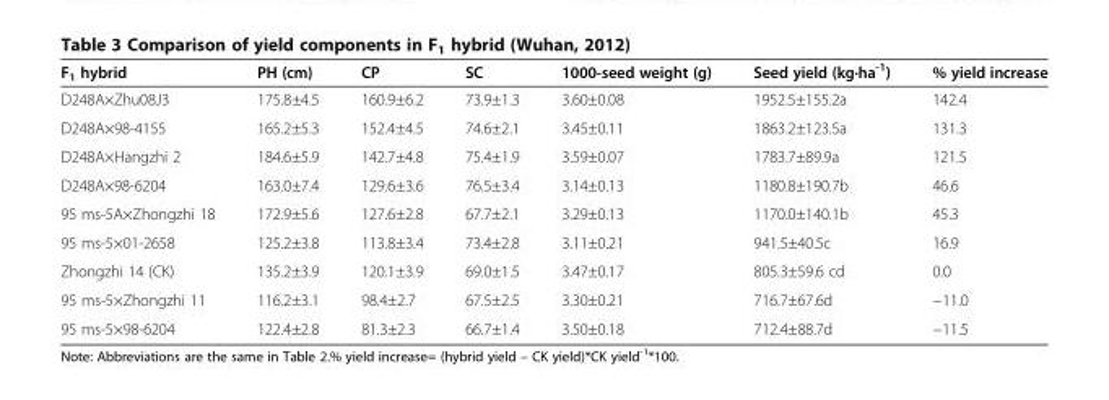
<table><thead><tr><td>F<sub>1</sub> hybrid</td><td>PH (cm)</td><td>CP</td><td>SC</td><td>1000-seed weight (g)</td><td>Seed yield (kg·ha<sup>-1</sup>)</td><td>% yield increase</td></tr></thead><tbody><tr><td>D248A×Zhu08J3</td><td>175.8±4.5</td><td>160.9±6.2</td><td>73.9±1.3</td><td>3.60±0.08</td><td>1952.5±155.2a</td><td>142.4</td></tr><tr><td>D248A×98-4155</td><td>165.2±5.3</td><td>152.4±4.5</td><td>74.6±2.1</td><td>3.45±0.11</td><td>1863.2±123.5a</td><td>131.3</td></tr><tr><td>D248A×Hangzhi 2</td><td>184.6±5.9</td><td>142.7±4.8</td><td>75.4±1.9</td><td>3.59±0.07</td><td>1783.7±89.9a</td><td>121.5</td></tr><tr><td>D248A×98-6204</td><td>163.0±7.4</td><td>129.6±3.6</td><td>76.5±3.4</td><td>3.14±0.13</td><td>1180.8±190.7b</td><td>46.6</td></tr><tr><td>95 ms-5A×Zhongzhi 18</td><td>172.9±5.6</td><td>127.6±2.8</td><td>67.7±2.1</td><td>3.29±0.13</td><td>1170.0±140.1b</td><td>45.3</td></tr><tr><td>95 ms-5×01-2658</td><td>125.2±3.8</td><td>113.8±3.4</td><td>73.4±2.8</td><td>3.11±0.21</td><td>941.5±40.5c</td><td>16.9</td></tr><tr><td>Zhongzhi 14 (CK)</td><td>135.2±3.9</td><td>120.1±3.9</td><td>69.0±1.5</td><td>3.47±0.17</td><td>805.3±59.6 cd</td><td>0.0</td></tr><tr><td>95 ms-5×Zhongzhi 11</td><td>116.2±3.1</td><td>98.4±2.7</td><td>67.5±2.5</td><td>3.30±0.21</td><td>716.7±67.6d</td><td>−11.0</td></tr><tr><td>95 ms-5×98-6204</td><td>122.4±2.8</td><td>81.3±2.3</td><td>66.7±1.4</td><td>3.50±0.18</td><td>712.4±88.7d</td><td>−11.5</td></tr></tbody></table>